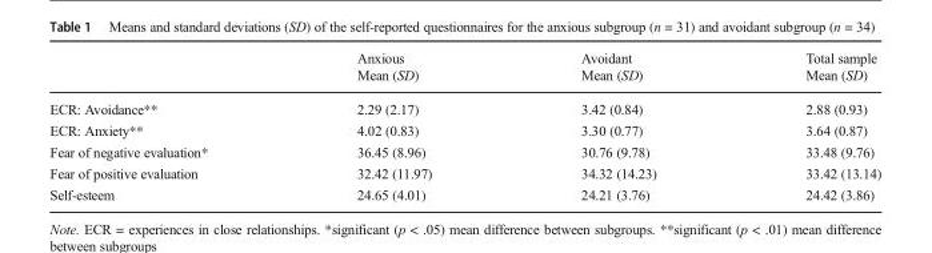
<table><thead><tr><td rowspan="2"></td><td rowspan="2">Anxious Mean (SD)</td><td rowspan="2">Avoidant Mean (SD)</td><td rowspan="2">Total sample Mean (SD)</td></tr><tr></tr></thead><tbody><tr><td>ECR: Avoidance**</td><td>2.29 (2.17)</td><td>3.42 (0.84)</td><td>2.88 (0.93)</td></tr><tr><td>ECR: Anxiety**</td><td>4.02 (0.83)</td><td>3.30 (0.77)</td><td>3.64 (0.87)</td></tr><tr><td>Fear of negative evaluation*</td><td>36.45 (8.96)</td><td>30.76 (9.78)</td><td>33.48 (9.76)</td></tr><tr><td>Fear of positive evaluation</td><td>32.42 (11.97)</td><td>34.32 (14.23)</td><td>33.42 (13.14)</td></tr><tr><td>Self-esteem</td><td>24.65 (4.01)</td><td>24.21 (3.76)</td><td>24.42 (3.86)</td></tr></tbody></table>